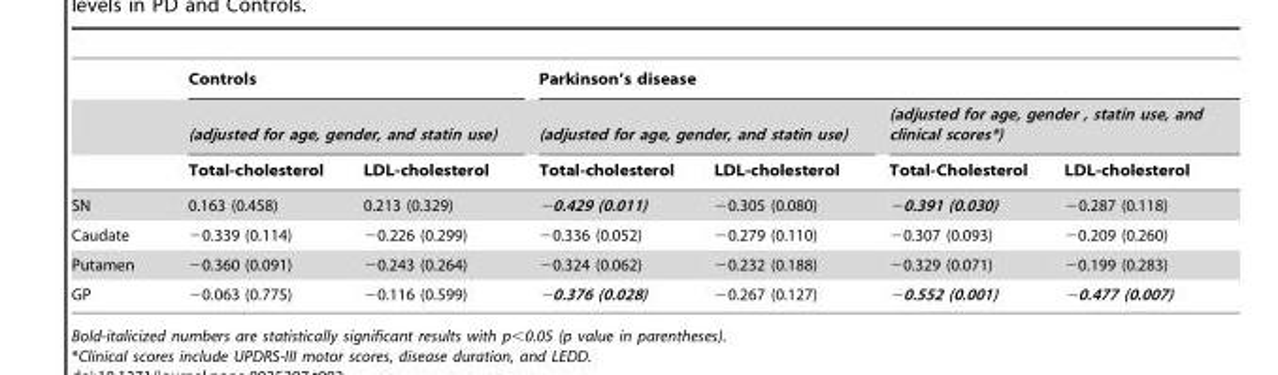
<table><thead><tr><td rowspan="3"></td><td rowspan="2" colspan="2">Controls (adjusted for age, gender, and statin use)</td><td colspan="4">Parkinson’s disease</td></tr><tr><td colspan="2">(adjusted for age, gender, and statin use)</td><td colspan="2">(adjusted for age, gender , statin use, and clinical scores*)</td></tr><tr><td>Total-cholesterol</td><td>LDL-cholesterol</td><td>Total-cholesterol</td><td>LDL-cholesterol</td><td>Total-Cholesterol</td><td>LDL-cholesterol</td></tr></thead><tbody><tr><td>SN</td><td>0.163 (0.458)</td><td>0.213 (0.329)</td><td>−0.429 (0.011)</td><td>−0.305 (0.080)</td><td>−0.391 (0.030)</td><td>−0.287 (0.118)</td></tr><tr><td>Caudate</td><td>−0.339 (0.114)</td><td>−0.226 (0.299)</td><td>−0.336 (0.052)</td><td>−0.279 (0.110)</td><td>−0.307 (0.093)</td><td>−0.209 (0.260)</td></tr><tr><td>Putamen</td><td>−0.360 (0.091)</td><td>−0.243 (0.264)</td><td>−0.324 (0.062)</td><td>−0.232 (0.188)</td><td>−0.329 (0.071)</td><td>−0.199 (0.283)</td></tr><tr><td>GP</td><td>−0.063 (0.775)</td><td>−0.116 (0.599)</td><td>−0.376 (0.028)</td><td>−0.267 (0.127)</td><td>−0.552 (0.001)</td><td>−0.477 (0.007)</td></tr></tbody></table>